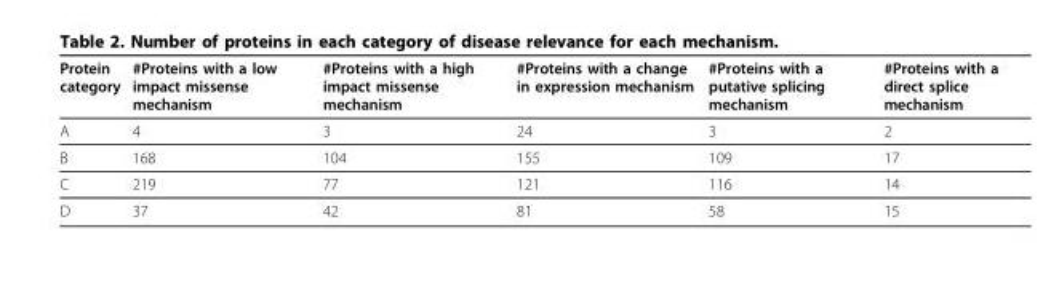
<table><thead><tr><td>Protein category</td><td>#Proteins with a low impact missense mechanism</td><td>#Proteins with a high impact missense mechanism</td><td>#Proteins with a change in expression mechanism</td><td>#Proteins with a putative splicing mechanism</td><td>#Proteins with a direct splice mechanism</td></tr></thead><tbody><tr><td>A</td><td>4</td><td>3</td><td>24</td><td>3</td><td>2</td></tr><tr><td>B</td><td>168</td><td>104</td><td>155</td><td>109</td><td>17</td></tr><tr><td>C</td><td>219</td><td>77</td><td>121</td><td>116</td><td>14</td></tr><tr><td>D</td><td>37</td><td>42</td><td>81</td><td>58</td><td>15</td></tr></tbody></table>